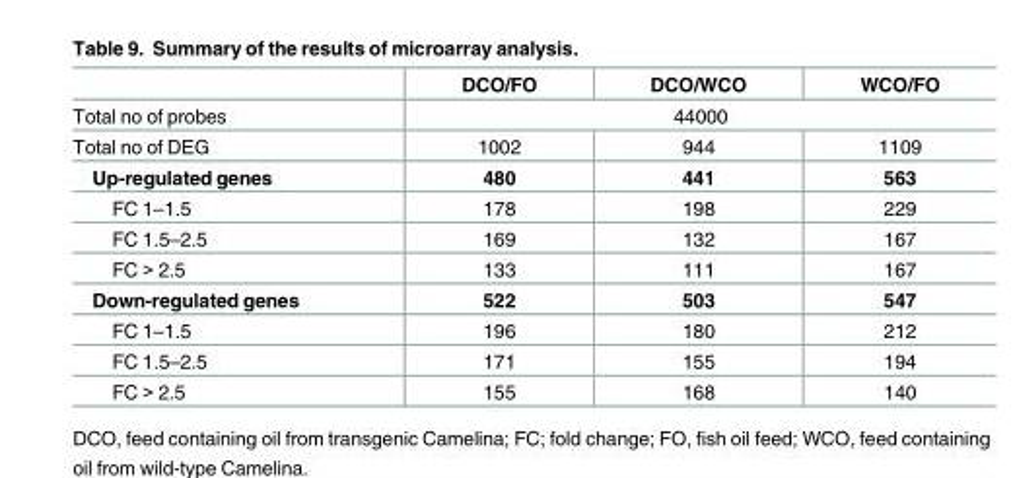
<table><thead><tr><td></td><td>DCO/FO</td><td>DCO/WCO</td><td>WCO/FO</td></tr></thead><tbody><tr><td>Total no of probes</td><td colspan="3">44000</td></tr><tr><td>Total no of DEG</td><td>1002</td><td>944</td><td>1109</td></tr><tr><td>Up-regulated genes</td><td>480</td><td>441</td><td>563</td></tr><tr><td>FC 1–1.5</td><td>178</td><td>198</td><td>229</td></tr><tr><td>FC 1.5–2.5</td><td>169</td><td>132</td><td>167</td></tr><tr><td>FC &gt; 2.5</td><td>133</td><td>111</td><td>167</td></tr><tr><td>Down-regulated genes</td><td>522</td><td>503</td><td>547</td></tr><tr><td>FC 1–1.5</td><td>196</td><td>180</td><td>212</td></tr><tr><td>FC 1.5–2.5</td><td>171</td><td>155</td><td>194</td></tr><tr><td>FC &gt; 2.5</td><td>155</td><td>168</td><td>140</td></tr></tbody></table>